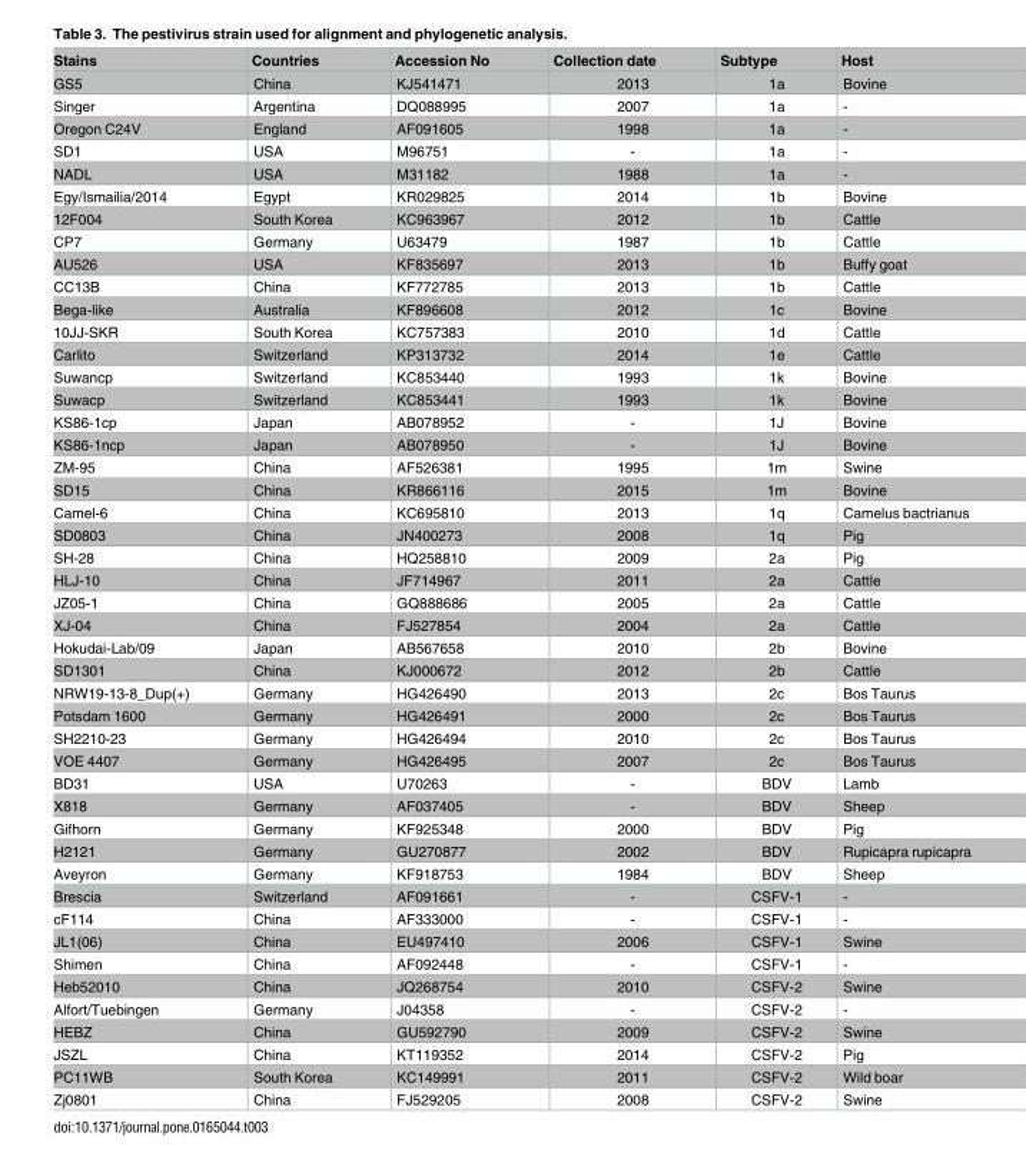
<table><thead><tr><td>Stains</td><td>Countries</td><td>Accession No</td><td>Collection date</td><td>Subtype</td><td>Host</td></tr></thead><tbody><tr><td>GS5</td><td>China</td><td>KJ541471</td><td>2013</td><td>1a</td><td>Bovine</td></tr><tr><td>Singer</td><td>Argentina</td><td>DQ088995</td><td>2007</td><td>1a</td><td>-</td></tr><tr><td>Oregon C24V</td><td>England</td><td>AF091605</td><td>1998</td><td>1a</td><td>-</td></tr><tr><td>SD1</td><td>USA</td><td>M96751</td><td>-</td><td>1a</td><td>-</td></tr><tr><td>NADL</td><td>USA</td><td>M31182</td><td>1988</td><td>1a</td><td>-</td></tr><tr><td>Egy/Ismailia/2014</td><td>Egypt</td><td>KR029825</td><td>2014</td><td>1b</td><td>Bovine</td></tr><tr><td>12F004</td><td>South Korea</td><td>KC963967</td><td>2012</td><td>1b</td><td>Cattle</td></tr><tr><td>CP7</td><td>Germany</td><td>U63479</td><td>1987</td><td>1b</td><td>Cattle</td></tr><tr><td>AU526</td><td>USA</td><td>KF835697</td><td>2013</td><td>1b</td><td>Buffy goat</td></tr><tr><td>CC13B</td><td>China</td><td>KF772785</td><td>2013</td><td>1b</td><td>Cattle</td></tr><tr><td>Bega-like</td><td>Australia</td><td>KF896608</td><td>2012</td><td>1c</td><td>Bovine</td></tr><tr><td>10JJ-SKR</td><td>South Korea</td><td>KC757383</td><td>2010</td><td>1d</td><td>Cattle</td></tr><tr><td>Carlito</td><td>Switzerland</td><td>KP313732</td><td>2014</td><td>1e</td><td>Cattle</td></tr><tr><td>Suwancp</td><td>Switzerland</td><td>KC853440</td><td>1993</td><td>1k</td><td>Bovine</td></tr><tr><td>Suwacp</td><td>Switzerland</td><td>KC853441</td><td>1993</td><td>1k</td><td>Bovine</td></tr><tr><td>KS86-1cp</td><td>Japan</td><td>AB078952</td><td>-</td><td>1J</td><td>Bovine</td></tr><tr><td>KS86-1ncp</td><td>Japan</td><td>AB078950</td><td>-</td><td>1J</td><td>Bovine</td></tr><tr><td>ZM-95</td><td>China</td><td>AF526381</td><td>1995</td><td>1m</td><td>Swine</td></tr><tr><td>SD15</td><td>China</td><td>KR866116</td><td>2015</td><td>1m</td><td>Bovine</td></tr><tr><td>Camel-6</td><td>China</td><td>KC695810</td><td>2013</td><td>1q</td><td>Camelus bactrianus</td></tr><tr><td>SD0803</td><td>China</td><td>JN400273</td><td>2008</td><td>1q</td><td>Pig</td></tr><tr><td>SH-28</td><td>China</td><td>HQ258810</td><td>2009</td><td>2a</td><td>Pig</td></tr><tr><td>HLJ-10</td><td>China</td><td>JF714967</td><td>2011</td><td>2a</td><td>Cattle</td></tr><tr><td>JZ05-1</td><td>China</td><td>GQ888686</td><td>2005</td><td>2a</td><td>Cattle</td></tr><tr><td>XJ-04</td><td>China</td><td>FJ527854</td><td>2004</td><td>2a</td><td>Cattle</td></tr><tr><td>Hokudai-Lab/09</td><td>Japan</td><td>AB567658</td><td>2010</td><td>2b</td><td>Bovine</td></tr><tr><td>SD1301</td><td>China</td><td>KJ000672</td><td>2012</td><td>2b</td><td>Cattle</td></tr><tr><td>NRW19-13-8_Dup(+)</td><td>Germany</td><td>HG426490</td><td>2013</td><td>2c</td><td>Bos Taurus</td></tr><tr><td>Potsdam 1600</td><td>Germany</td><td>HG426491</td><td>2000</td><td>2c</td><td>Bos Taurus</td></tr><tr><td>SH2210-23</td><td>Germany</td><td>HG426494</td><td>2010</td><td>2c</td><td>Bos Taurus</td></tr><tr><td>VOE 4407</td><td>Germany</td><td>HG426495</td><td>2007</td><td>2c</td><td>Bos Taurus</td></tr><tr><td>BD31</td><td>USA</td><td>U70263</td><td>-</td><td>BDV</td><td>Lamb</td></tr><tr><td>X818</td><td>Germany</td><td>AF037405</td><td>-</td><td>BDV</td><td>Sheep</td></tr><tr><td>Gifhorn</td><td>Germany</td><td>KF925348</td><td>2000</td><td>BDV</td><td>Pig</td></tr><tr><td>H2121</td><td>Germany</td><td>GU270877</td><td>2002</td><td>BDV</td><td>Rupicapra rupicapra</td></tr><tr><td>Aveyron</td><td>Germany</td><td>KF918753</td><td>1984</td><td>BDV</td><td>Sheep</td></tr><tr><td>Brescia</td><td>Switzerland</td><td>AF091661</td><td>-</td><td>CSFV-1</td><td>-</td></tr><tr><td>cF114</td><td>China</td><td>AF333000</td><td>-</td><td>CSFV-1</td><td>-</td></tr><tr><td>JL1(06)</td><td>China</td><td>EU497410</td><td>2006</td><td>CSFV-1</td><td>Swine</td></tr><tr><td>Shimen</td><td>China</td><td>AF092448</td><td>-</td><td>CSFV-1</td><td>-</td></tr><tr><td>Heb52010</td><td>China</td><td>JQ268754</td><td>2010</td><td>CSFV-2</td><td>Swine</td></tr><tr><td>Alfort/Tuebingen</td><td>Germany</td><td>J04358</td><td>-</td><td>CSFV-2</td><td>-</td></tr><tr><td>HEBZ</td><td>China</td><td>GU592790</td><td>2009</td><td>CSFV-2</td><td>Swine</td></tr><tr><td>JSZL</td><td>China</td><td>KT119352</td><td>2014</td><td>CSFV-2</td><td>Pig</td></tr><tr><td>PC11WB</td><td>South Korea</td><td>KC149991</td><td>2011</td><td>CSFV-2</td><td>Wild boar</td></tr><tr><td>Zj0801</td><td>China</td><td>FJ529205</td><td>2008</td><td>CSFV-2</td><td>Swine</td></tr></tbody></table>